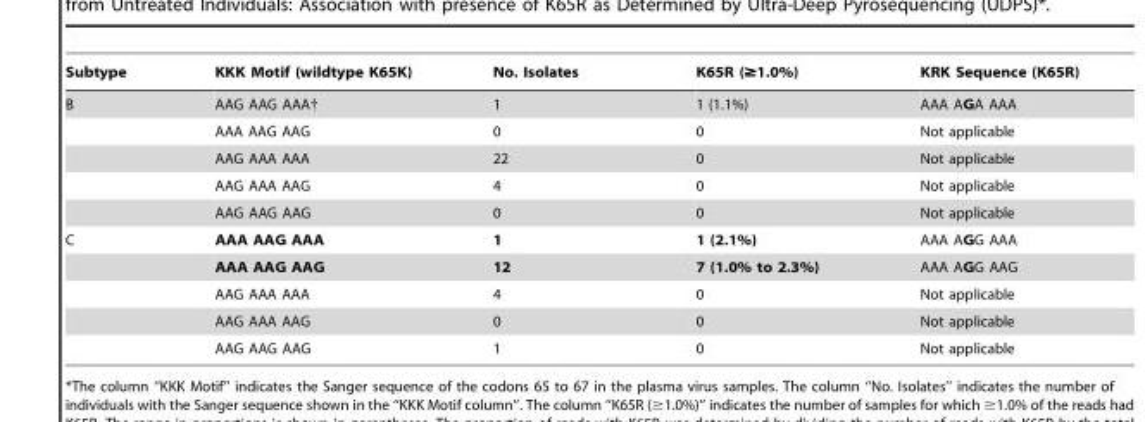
<table><thead><tr><td>Subtype</td><td>KKK Motif (wildtype K65K)</td><td>No. Isolates</td><td>K65R (≥1.0%)</td><td>KRK Sequence (K65R)</td></tr></thead><tbody><tr><td rowspan="5">B</td><td>AAG AAG AAA†</td><td>1</td><td>1 (1.1%)</td><td>AAA AGA AAA</td></tr><tr><td>AAA AAG AAG</td><td>0</td><td>0</td><td>Not applicable</td></tr><tr><td>AAG AAA AAA</td><td>22</td><td>0</td><td>Not applicable</td></tr><tr><td>AAG AAA AAG</td><td>4</td><td>0</td><td>Not applicable</td></tr><tr><td>AAG AAG AAG</td><td>0</td><td>0</td><td>Not applicable</td></tr><tr><td rowspan="5">C</td><td>AAA AAG AAA</td><td>1</td><td>1 (2.1%)</td><td>AAA AGG AAA</td></tr><tr><td>AAA AAG AAG</td><td>12</td><td>7 (1.0% to 2.3%)</td><td>AAA AGG AAG</td></tr><tr><td>AAG AAA AAA</td><td>4</td><td>0</td><td>Not applicable</td></tr><tr><td>AAG AAA AAG</td><td>0</td><td>0</td><td>Not applicable</td></tr><tr><td>AAG AAG AAG</td><td>1</td><td>0</td><td>Not applicable</td></tr></tbody></table>